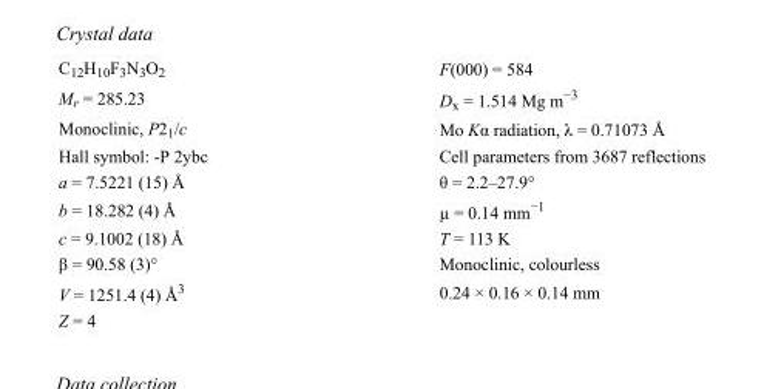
<table><tbody><tr><td>C<sub>12</sub>H<sub>10</sub>F<sub>3</sub>N<sub>3</sub>O<sub>2</sub></td><td>F(000) = 584</td></tr><tr><td>M<sub>r</sub> = 285.23</td><td>D<sub>x</sub> = 1.514 Mg m<sup>−3</sup></td></tr><tr><td>Monoclinic, P2<sub>1</sub>/c</td><td>Mo Kα radiation, λ = 0.71073 Å</td></tr><tr><td>Hall symbol: -P 2ybc</td><td>Cell parameters from 3687 reflections</td></tr><tr><td>a = 7.5221 (15) Å</td><td>θ = 2.2–27.9°</td></tr><tr><td>b = 18.282 (4) Å</td><td>µ = 0.14 mm<sup>−1</sup></td></tr><tr><td>c = 9.1002 (18) Å</td><td>T = 113 K</td></tr><tr><td>β = 90.58 (3)°</td><td>Monoclinic, colourless</td></tr><tr><td>V = 1251.4 (4) Å<sup>3</sup></td><td>0.24 × 0.16 × 0.14 mm</td></tr><tr><td>Z = 4</td><td></td></tr></tbody></table>